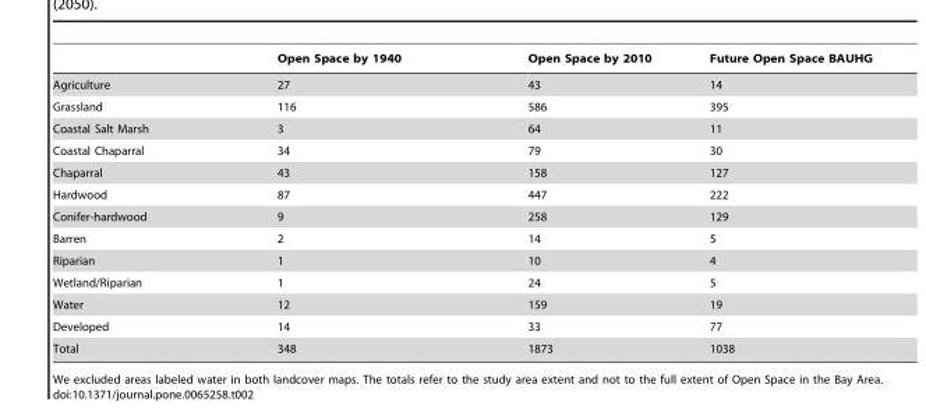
<table><thead><tr><td></td><td>Open Space by 1940</td><td>Open Space by 2010</td><td>Future Open Space BAUHG</td></tr></thead><tbody><tr><td>Agriculture</td><td>27</td><td>43</td><td>14</td></tr><tr><td>Grassland</td><td>116</td><td>586</td><td>395</td></tr><tr><td>Coastal Salt Marsh</td><td>3</td><td>64</td><td>11</td></tr><tr><td>Coastal Chaparral</td><td>34</td><td>79</td><td>30</td></tr><tr><td>Chaparral</td><td>43</td><td>158</td><td>127</td></tr><tr><td>Hardwood</td><td>87</td><td>447</td><td>222</td></tr><tr><td>Conifer-hardwood</td><td>9</td><td>258</td><td>129</td></tr><tr><td>Barren</td><td>2</td><td>14</td><td>5</td></tr><tr><td>Riparian</td><td>1</td><td>10</td><td>4</td></tr><tr><td>Wetland/Riparian</td><td>1</td><td>24</td><td>5</td></tr><tr><td>Water</td><td>12</td><td>159</td><td>19</td></tr><tr><td>Developed</td><td>14</td><td>33</td><td>77</td></tr><tr><td>Total</td><td>348</td><td>1873</td><td>1038</td></tr></tbody></table>